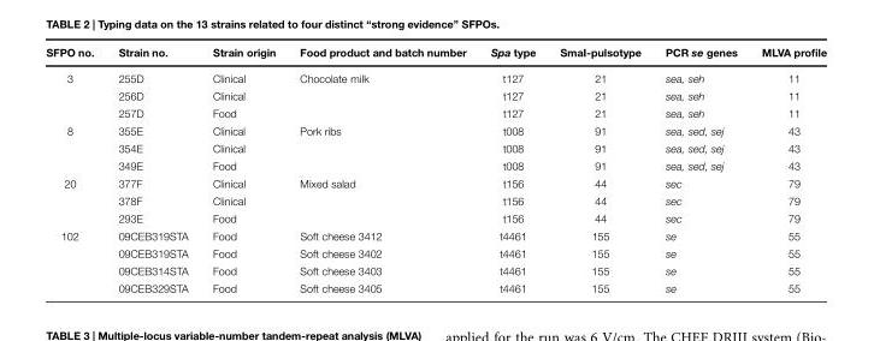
<table><thead><tr><td>SFPO no.</td><td>Strain no.</td><td>Strain origin</td><td>Food product and batch number</td><td>Spa type</td><td>SmaI-pulsotype</td><td>PCR se genes</td><td>MLVA profile</td></tr></thead><tbody><tr><td rowspan="3">3</td><td>255D</td><td>Clinical</td><td>Chocolate milk</td><td>t127</td><td>21</td><td>sea, seh</td><td>11</td></tr><tr><td>256D</td><td>Clinical</td><td></td><td>t127</td><td>21</td><td>sea, seh</td><td>11</td></tr><tr><td>257D</td><td>Food</td><td></td><td>t127</td><td>21</td><td>sea, seh</td><td>11</td></tr><tr><td rowspan="3">8</td><td>355E</td><td>Clinical</td><td>Pork ribs</td><td>t008</td><td>91</td><td>sea, sed, sej</td><td>43</td></tr><tr><td>354E</td><td>Clinical</td><td></td><td>t008</td><td>91</td><td>sea, sed, sej</td><td>43</td></tr><tr><td>349E</td><td>Food</td><td></td><td>t008</td><td>91</td><td>sea, sed, sej</td><td>43</td></tr><tr><td rowspan="3">20</td><td>377F</td><td>Clinical</td><td>Mixed salad</td><td>t156</td><td>44</td><td>sec</td><td>79</td></tr><tr><td>378F</td><td>Clinical</td><td></td><td>t156</td><td>44</td><td>sec</td><td>79</td></tr><tr><td>293E</td><td>Food</td><td></td><td>t156</td><td>44</td><td>sec</td><td>79</td></tr><tr><td rowspan="4">102</td><td>09CEB319STA</td><td>Food</td><td>Soft cheese 3412</td><td>t4461</td><td>155</td><td>se</td><td>55</td></tr><tr><td>09CEB319STA</td><td>Food</td><td>Soft cheese 3402</td><td>t4461</td><td>155</td><td>se</td><td>55</td></tr><tr><td>09CEB314STA</td><td>Food</td><td>Soft cheese 3403</td><td>t4461</td><td>155</td><td>se</td><td>55</td></tr><tr><td>09CEB329STA</td><td>Food</td><td>Soft cheese 3405</td><td>t4461</td><td>155</td><td>se</td><td>55</td></tr></tbody></table>